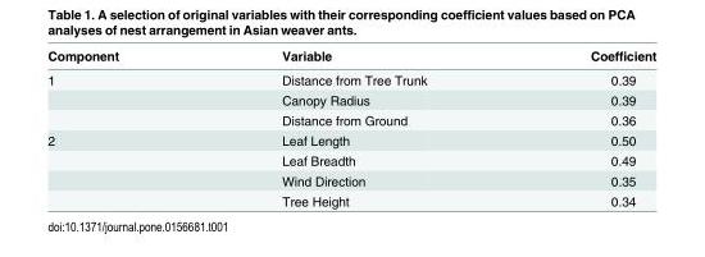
<table><thead><tr><td>Component</td><td>Variable</td><td>Coefficient</td></tr></thead><tbody><tr><td rowspan="3">1</td><td>Distance from Tree Trunk</td><td>0.39</td></tr><tr><td>Canopy Radius</td><td>0.39</td></tr><tr><td>Distance from Ground</td><td>0.36</td></tr><tr><td rowspan="4">2</td><td>Leaf Length</td><td>0.50</td></tr><tr><td>Leaf Breadth</td><td>0.49</td></tr><tr><td>Wind Direction</td><td>0.35</td></tr><tr><td>Tree Height</td><td>0.34</td></tr></tbody></table>